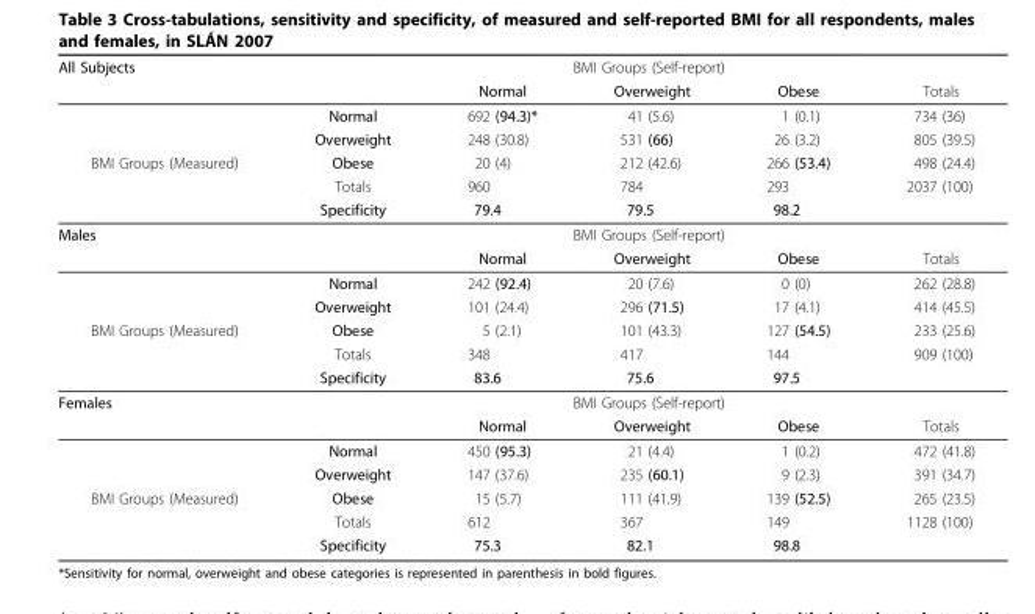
<table><tbody><tr><td rowspan="2">All Subjects</td><td></td><td colspan="3">BMI Groups (Self-report)</td><td></td></tr><tr><td></td><td>Normal</td><td>Overweight</td><td>Obese</td><td>Totals</td></tr><tr><td rowspan="5">BMI Groups (Measured)</td><td>Normal</td><td>692 (94.3)*</td><td>41 (5.6)</td><td>1 (0.1)</td><td>734 (36)</td></tr><tr><td>Overweight</td><td>248 (30.8)</td><td>531 (66)</td><td>26 (3.2)</td><td>805 (39.5)</td></tr><tr><td>Obese</td><td>20 (4)</td><td>212 (42.6)</td><td>266 (53.4)</td><td>498 (24.4)</td></tr><tr><td>Totals</td><td>960</td><td>784</td><td>293</td><td>2037 (100)</td></tr><tr><td>Specificity</td><td>79.4</td><td>79.5</td><td>98.2</td><td></td></tr><tr><td rowspan="2">Males</td><td></td><td colspan="3">BMI Groups (Self-report)</td><td></td></tr><tr><td></td><td>Normal</td><td>Overweight</td><td>Obese</td><td>Totals</td></tr><tr><td rowspan="5">BMI Groups (Measured)</td><td>Normal</td><td>242 (92.4)</td><td>20 (7.6)</td><td>0 (0)</td><td>262 (28.8)</td></tr><tr><td>Overweight</td><td>101 (24.4)</td><td>296 (71.5)</td><td>17 (4.1)</td><td>414 (45.5)</td></tr><tr><td>Obese</td><td>5 (2.1)</td><td>101 (43.3)</td><td>127 (54.5)</td><td>233 (25.6)</td></tr><tr><td>Totals</td><td>348</td><td>417</td><td>144</td><td>909 (100)</td></tr><tr><td>Specificity</td><td>83.6</td><td>75.6</td><td>97.5</td><td></td></tr><tr><td rowspan="2">Females</td><td></td><td colspan="3">BMI Groups (Self-report)</td><td></td></tr><tr><td></td><td>Normal</td><td>Overweight</td><td>Obese</td><td>Totals</td></tr><tr><td rowspan="5">BMI Groups (Measured)</td><td>Normal</td><td>450 (95.3)</td><td>21 (4.4)</td><td>1 (0.2)</td><td>472 (41.8)</td></tr><tr><td>Overweight</td><td>147 (37.6)</td><td>235 (60.1)</td><td>9 (2.3)</td><td>391 (34.7)</td></tr><tr><td>Obese</td><td>15 (5.7)</td><td>111 (41.9)</td><td>139 (52.5)</td><td>265 (23.5)</td></tr><tr><td>Totals</td><td>612</td><td>367</td><td>149</td><td>1128 (100)</td></tr><tr><td>Specificity</td><td>75.3</td><td>82.1</td><td>98.8</td><td></td></tr></tbody></table>